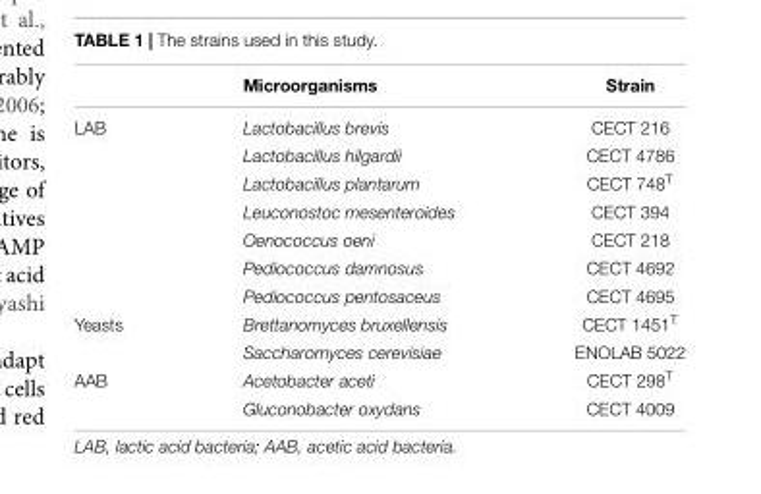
<table><thead><tr><td></td><td>Microorganisms</td><td>Strain</td></tr></thead><tbody><tr><td rowspan="7">LAB</td><td>Lactobacillus brevis</td><td>CECT 216</td></tr><tr><td>Lactobacillus hilgardii</td><td>CECT 4786</td></tr><tr><td>Lactobacillus plantarum</td><td>CECT 748<sup>T</sup></td></tr><tr><td>Leuconostoc mesenteroides</td><td>CECT 394</td></tr><tr><td>Oenococcus oeni</td><td>CECT 218</td></tr><tr><td>Pediococcus damnosus</td><td>CECT 4692</td></tr><tr><td>Pediococcus pentosaceus</td><td>CECT 4695</td></tr><tr><td rowspan="2">Yeasts</td><td>Brettanomyces bruxellensis</td><td>CECT 1451<sup>T</sup></td></tr><tr><td>Saccharomyces cerevisiae</td><td>ENOLAB 5022</td></tr><tr><td rowspan="2">AAB</td><td>Acetobacter aceti</td><td>CECT 298<sup>T</sup></td></tr><tr><td>Gluconobacter oxydans</td><td>CECT 4009</td></tr></tbody></table>